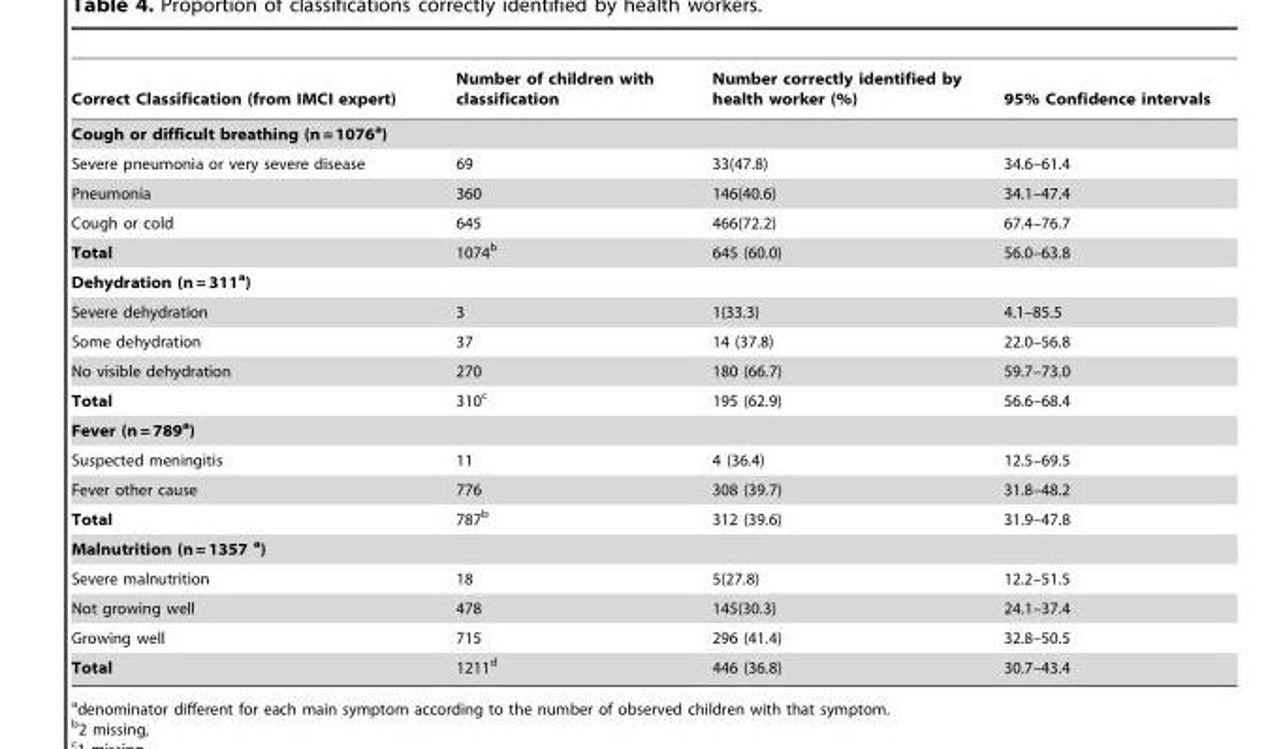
<table><thead><tr><td>Correct Classification (from IMCI expert)</td><td>Number of children with classification</td><td>Number correctly identified by health worker (%)</td><td>95% Confidence intervals</td></tr></thead><tbody><tr><td colspan="4">Cough or difficult breathing (n = 1076<sup>a</sup>)</td></tr><tr><td>Severe pneumonia or very severe disease</td><td>69</td><td>33(47.8)</td><td>34.6–61.4</td></tr><tr><td>Pneumonia</td><td>360</td><td>146(40.6)</td><td>34.1–47.4</td></tr><tr><td>Cough or cold</td><td>645</td><td>466(72.2)</td><td>67.4–76.7</td></tr><tr><td>Total</td><td>1074<sup>b</sup></td><td>645 (60.0)</td><td>56.0–63.8</td></tr><tr><td colspan="4">Dehydration (n = 311<sup>a</sup>)</td></tr><tr><td>Severe dehydration</td><td>3</td><td>1(33.3)</td><td>4.1–85.5</td></tr><tr><td>Some dehydration</td><td>37</td><td>14 (37.8)</td><td>22.0–56.8</td></tr><tr><td>No visible dehydration</td><td>270</td><td>180 (66.7)</td><td>59.7–73.0</td></tr><tr><td>Total</td><td>310<sup>c</sup></td><td>195 (62.9)</td><td>56.6–68.4</td></tr><tr><td colspan="4">Fever (n = 789<sup>a</sup>)</td></tr><tr><td>Suspected meningitis</td><td>11</td><td>4 (36.4)</td><td>12.5–69.5</td></tr><tr><td>Fever other cause</td><td>776</td><td>308 (39.7)</td><td>31.8–48.2</td></tr><tr><td>Total</td><td>787<sup>b</sup></td><td>312 (39.6)</td><td>31.9–47.8</td></tr><tr><td colspan="4">Malnutrition (n = 1357 a)</td></tr><tr><td>Severe malnutrition</td><td>18</td><td>5(27.8)</td><td>12.2–51.5</td></tr><tr><td>Not growing well</td><td>478</td><td>145(30.3)</td><td>24.1–37.4</td></tr><tr><td>Growing well</td><td>715</td><td>296 (41.4)</td><td>32.8–50.5</td></tr><tr><td>Total</td><td>1211<sup>d</sup></td><td>446 (36.8)</td><td>30.7–43.4</td></tr></tbody></table>